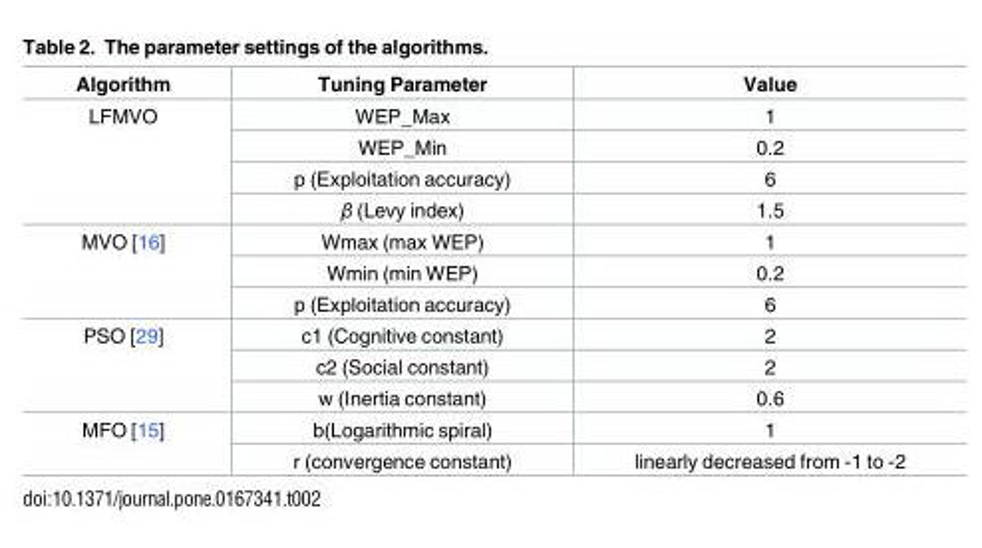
<table><thead><tr><td>Algorithm</td><td>Tuning Parameter</td><td>Value</td></tr></thead><tbody><tr><td rowspan="4">LFMVO</td><td>WEP_Max</td><td>1</td></tr><tr><td>WEP_Min</td><td>0.2</td></tr><tr><td>p (Exploitation accuracy)</td><td>6</td></tr><tr><td>β (Levy index)</td><td>1.5</td></tr><tr><td rowspan="3">MVO [16]</td><td>Wmax (max WEP)</td><td>1</td></tr><tr><td>Wmin (min WEP)</td><td>0.2</td></tr><tr><td>p (Exploitation accuracy)</td><td>6</td></tr><tr><td rowspan="3">PSO [29]</td><td>c1 (Cognitive constant)</td><td>2</td></tr><tr><td>c2 (Social constant)</td><td>2</td></tr><tr><td>w (Inertia constant)</td><td>0.6</td></tr><tr><td rowspan="2">MFO [15]</td><td>b(Logarithmic spiral)</td><td>1</td></tr><tr><td>r (convergence constant)</td><td>linearly decreased from -1 to -2</td></tr></tbody></table>